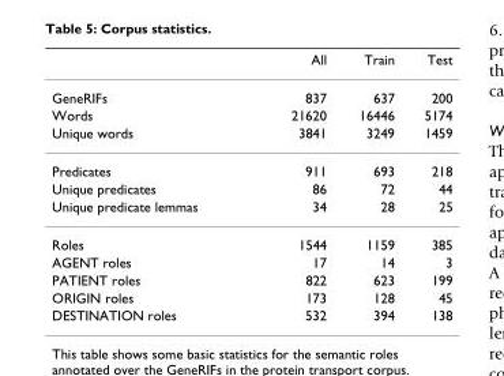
<table><thead><tr><td></td><td>All</td><td>Train</td><td>Test</td></tr></thead><tbody><tr><td>GeneRIFs</td><td>837</td><td>637</td><td>200</td></tr><tr><td>Words</td><td>21620</td><td>16446</td><td>5174</td></tr><tr><td>Unique words</td><td>3841</td><td>3249</td><td>1459</td></tr><tr><td>Predicates</td><td>911</td><td>693</td><td>218</td></tr><tr><td>Unique predicates</td><td>86</td><td>72</td><td>44</td></tr><tr><td>Unique predicate lemmas</td><td>34</td><td>28</td><td>25</td></tr><tr><td>Roles</td><td>1544</td><td>1159</td><td>385</td></tr><tr><td>AGENT roles</td><td>17</td><td>14</td><td>3</td></tr><tr><td>PATIENT roles</td><td>822</td><td>623</td><td>199</td></tr><tr><td>ORIGIN roles</td><td>173</td><td>128</td><td>45</td></tr><tr><td>DESTINATION roles</td><td>532</td><td>394</td><td>138</td></tr></tbody></table>